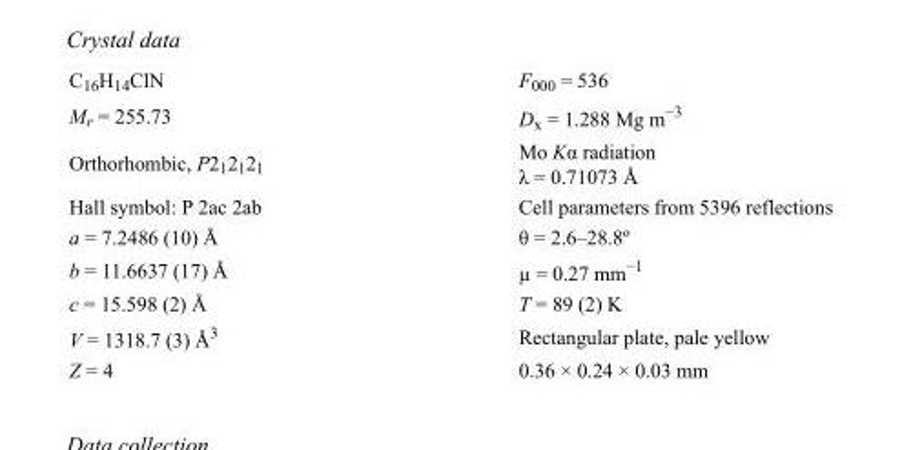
<table><tbody><tr><td>C<sub>16</sub>H<sub>14</sub>ClN</td><td>F000 = 536</td></tr><tr><td>M<sub>r</sub> = 255.73</td><td>D<sub>x</sub> = 1.288 Mg m<sup>−3</sup></td></tr><tr><td>Orthorhombic, P2<sub>1</sub>2<sub>1</sub>2<sub>1</sub></td><td>Mo Kα radiation λ = 0.71073 Å</td></tr><tr><td>Hall symbol: P 2ac 2ab</td><td>Cell parameters from 5396 reflections</td></tr><tr><td>a = 7.2486 (10) Å</td><td>θ = 2.6–28.8º</td></tr><tr><td>b = 11.6637 (17) Å</td><td>µ = 0.27 mm<sup>−1</sup></td></tr><tr><td>c = 15.598 (2) Å</td><td>T = 89 (2) K</td></tr><tr><td>V = 1318.7 (3) Å<sup>3</sup></td><td>Rectangular plate, pale yellow</td></tr><tr><td>Z = 4</td><td>0.36 × 0.24 × 0.03 mm</td></tr></tbody></table>